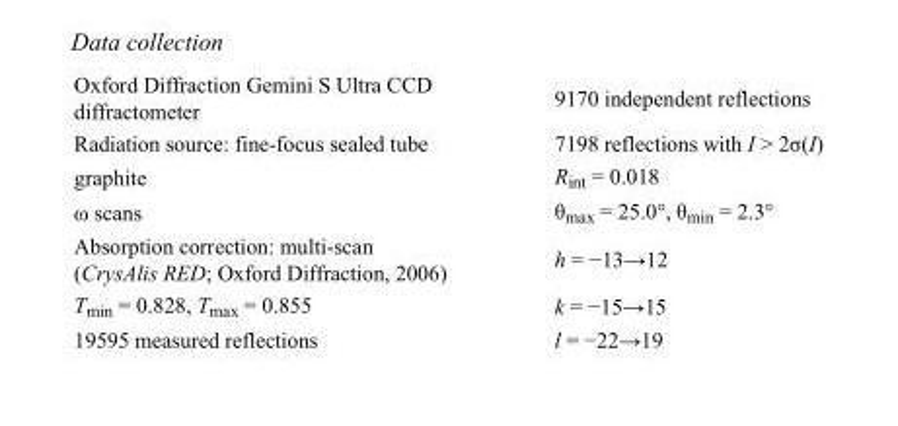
<table><tbody><tr><td>Oxford Diffraction Gemini S Ultra CCD diffractometer</td><td>9170 independent reflections</td></tr><tr><td>Radiation source: fine-focus sealed tube</td><td>7198 reflections with I &gt; 2σ(I)</td></tr><tr><td>graphite</td><td>R<sub>int</sub> = 0.018</td></tr><tr><td>ω scans</td><td>θ<sub>max</sub> = 25.0°, θ<sub>min</sub> = 2.3°</td></tr><tr><td>Absorption correction: multi-scan (CrysAlis RED; Oxford Diffraction, 2006)</td><td>h = −13→12</td></tr><tr><td>T<sub>min</sub> = 0.828, T<sub>max</sub> = 0.855</td><td>k = −15→15</td></tr><tr><td>19595 measured reflections</td><td>l = −22→19</td></tr></tbody></table>